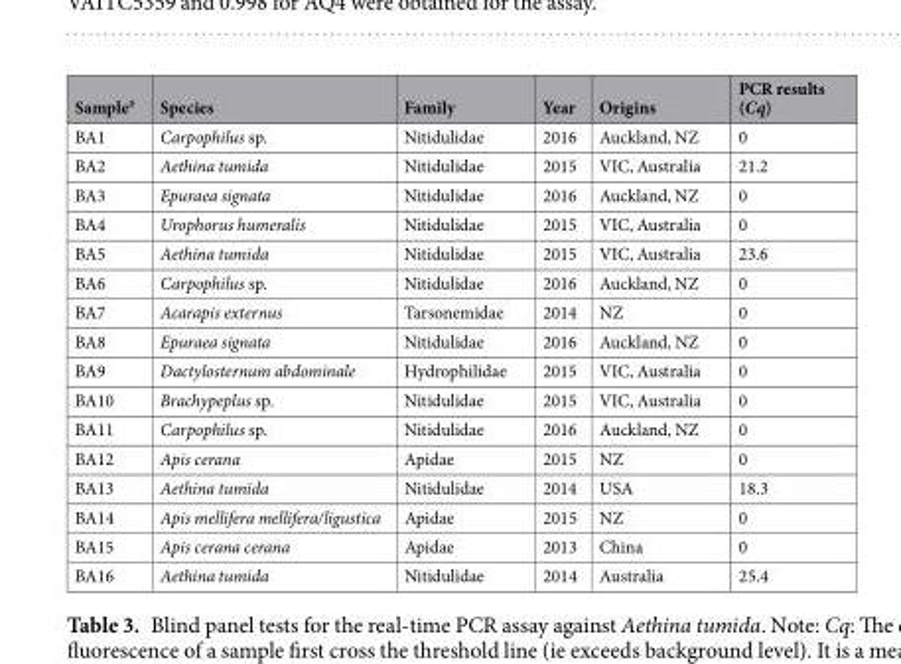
<table><thead><tr><td>Sample<sup>#</sup></td><td>Species</td><td>Family</td><td>Year</td><td>Origins</td><td>PCR results (Cq)</td></tr></thead><tbody><tr><td>BA1</td><td>Carpophilus sp.</td><td>Nitidulidae</td><td>2016</td><td>Auckland, NZ</td><td>0</td></tr><tr><td>BA2</td><td>Aethina tumida</td><td>Nitidulidae</td><td>2015</td><td>VIC, Australia</td><td>21.2</td></tr><tr><td>BA3</td><td>Epuraea signata</td><td>Nitidulidae</td><td>2016</td><td>Auckland, NZ</td><td>0</td></tr><tr><td>BA4</td><td>Urophorus humeralis</td><td>Nitidulidae</td><td>2015</td><td>VIC, Australia</td><td>0</td></tr><tr><td>BA5</td><td>Aethina tumida</td><td>Nitidulidae</td><td>2015</td><td>VIC, Australia</td><td>23.6</td></tr><tr><td>BA6</td><td>Carpophilus sp.</td><td>Nitidulidae</td><td>2016</td><td>Auckland, NZ</td><td>0</td></tr><tr><td>BA7</td><td>Acarapis externus</td><td>Tarsonemidae</td><td>2014</td><td>NZ</td><td>0</td></tr><tr><td>BA8</td><td>Epuraea signata</td><td>Nitidulidae</td><td>2016</td><td>Auckland, NZ</td><td>0</td></tr><tr><td>BA9</td><td>Dactylosternum abdominale</td><td>Hydrophilidae</td><td>2015</td><td>VIC, Australia</td><td>0</td></tr><tr><td>BA10</td><td>Brachypeplus sp.</td><td>Nitidulidae</td><td>2015</td><td>VIC, Australia</td><td>0</td></tr><tr><td>BA11</td><td>Carpophilus sp.</td><td>Nitidulidae</td><td>2016</td><td>Auckland, NZ</td><td>0</td></tr><tr><td>BA12</td><td>Apis cerana</td><td>Apidae</td><td>2015</td><td>NZ</td><td>0</td></tr><tr><td>BA13</td><td>Aethina tumida</td><td>Nitidulidae</td><td>2014</td><td>USA</td><td>18.3</td></tr><tr><td>BA14</td><td>Apis mellifera mellifera/ligustica</td><td>Apidae</td><td>2015</td><td>NZ</td><td>0</td></tr><tr><td>BA15</td><td>Apis cerana cerana</td><td>Apidae</td><td>2013</td><td>China</td><td>0</td></tr><tr><td>BA16</td><td>Aethina tumida</td><td>Nitidulidae</td><td>2014</td><td>Australia</td><td>25.4</td></tr></tbody></table>